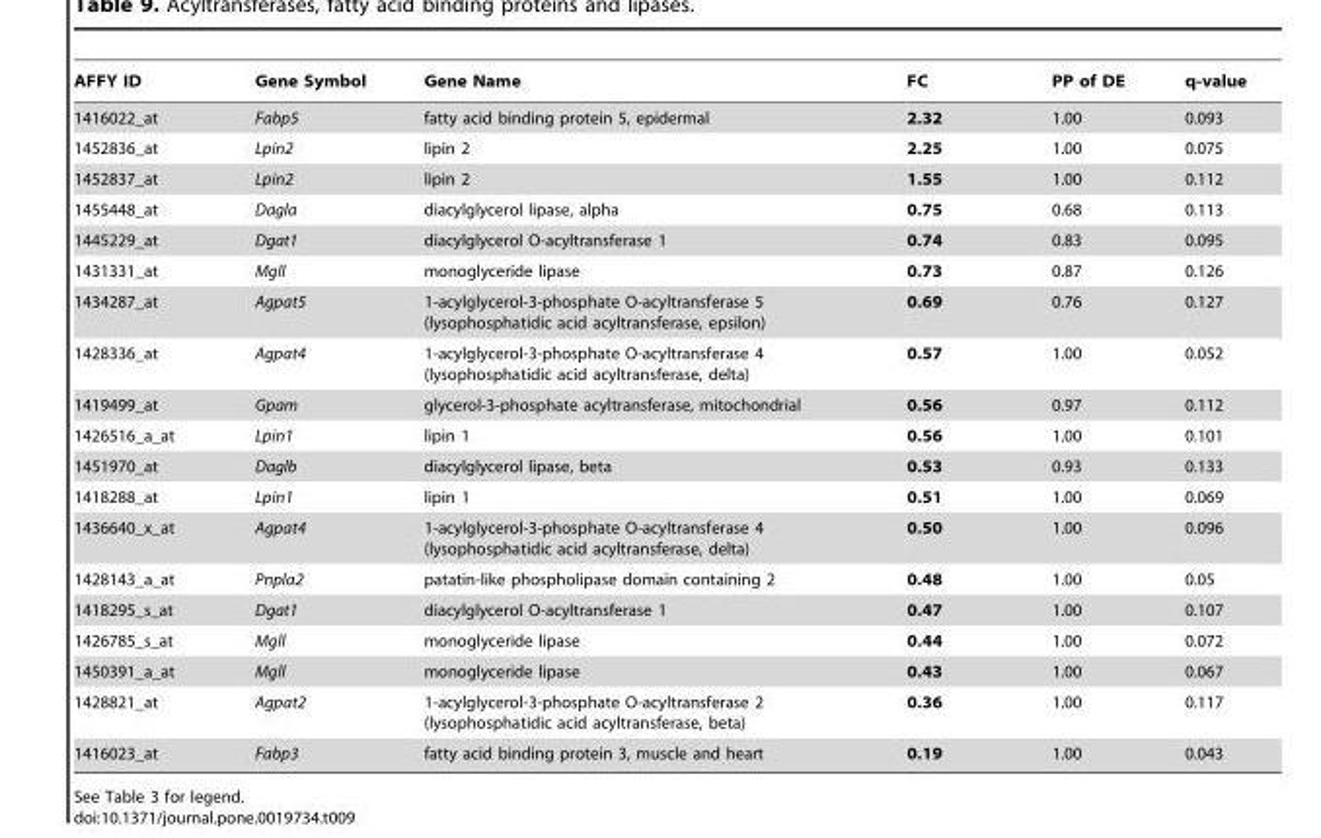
<table><thead><tr><td>AFFY ID</td><td>Gene Symbol</td><td>Gene Name</td><td>FC</td><td>PP of DE</td><td>q-value</td></tr></thead><tbody><tr><td>1416022_at</td><td>Fabp5</td><td>fatty acid binding protein 5, epidermal</td><td>2.32</td><td>1.00</td><td>0.093</td></tr><tr><td>1452836_at</td><td>Lpin2</td><td>lipin 2</td><td>2.25</td><td>1.00</td><td>0.075</td></tr><tr><td>1452837_at</td><td>Lpin2</td><td>lipin 2</td><td>1.55</td><td>1.00</td><td>0.112</td></tr><tr><td>1455448_at</td><td>Dagla</td><td>diacylglycerol lipase, alpha</td><td>0.75</td><td>0.68</td><td>0.113</td></tr><tr><td>1445229_at</td><td>Dgat1</td><td>diacylglycerol O-acyltransferase 1</td><td>0.74</td><td>0.83</td><td>0.095</td></tr><tr><td>1431331_at</td><td>Mgll</td><td>monoglyceride lipase</td><td>0.73</td><td>0.87</td><td>0.126</td></tr><tr><td>1434287_at</td><td>Agpat5</td><td>1-acylglycerol-3-phosphate O-acyltransferase 5 (lysophosphatidic acid acyltransferase, epsilon)</td><td>0.69</td><td>0.76</td><td>0.127</td></tr><tr><td>1428336_at</td><td>Agpat4</td><td>1-acylglycerol-3-phosphate O-acyltransferase 4 (lysophosphatidic acid acyltransferase, delta)</td><td>0.57</td><td>1.00</td><td>0.052</td></tr><tr><td>1419499_at</td><td>Gpam</td><td>glycerol-3-phosphate acyltransferase, mitochondrial</td><td>0.56</td><td>0.97</td><td>0.112</td></tr><tr><td>1426516_a_at</td><td>Lpin1</td><td>lipin 1</td><td>0.56</td><td>1.00</td><td>0.101</td></tr><tr><td>1451970_at</td><td>Daglb</td><td>diacylglycerol lipase, beta</td><td>0.53</td><td>0.93</td><td>0.133</td></tr><tr><td>1418288_at</td><td>Lpin1</td><td>lipin 1</td><td>0.51</td><td>1.00</td><td>0.069</td></tr><tr><td>1436640_x_at</td><td>Agpat4</td><td>1-acylglycerol-3-phosphate O-acyltransferase 4 (lysophosphatidic acid acyltransferase, delta)</td><td>0.50</td><td>1.00</td><td>0.096</td></tr><tr><td>1428143_a_at</td><td>Pnpla2</td><td>patatin-like phospholipase domain containing 2</td><td>0.48</td><td>1.00</td><td>0.05</td></tr><tr><td>1418295_s_at</td><td>Dgat1</td><td>diacylglycerol O-acyltransferase 1</td><td>0.47</td><td>1.00</td><td>0.107</td></tr><tr><td>1426785_s_at</td><td>Mgll</td><td>monoglyceride lipase</td><td>0.44</td><td>1.00</td><td>0.072</td></tr><tr><td>1450391_a_at</td><td>Mgll</td><td>monoglyceride lipase</td><td>0.43</td><td>1.00</td><td>0.067</td></tr><tr><td>1428821_at</td><td>Agpat2</td><td>1-acylglycerol-3-phosphate O-acyltransferase 2 (lysophosphatidic acid acyltransferase, beta)</td><td>0.36</td><td>1.00</td><td>0.117</td></tr><tr><td>1416023_at</td><td>Fabp3</td><td>fatty acid binding protein 3, muscle and heart</td><td>0.19</td><td>1.00</td><td>0.043</td></tr></tbody></table>